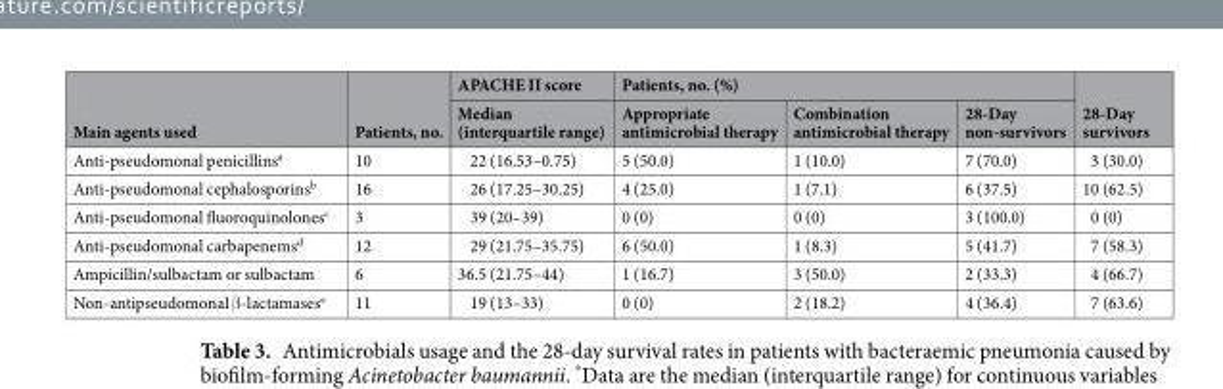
<table><thead><tr><td rowspan="2">Main agents used</td><td rowspan="2">Patients, no.</td><td rowspan="2">APACHE II score Median (interquartile range)</td><td colspan="3">Patients, no. (%)</td><td rowspan="2">28-Day survivors</td></tr><tr><td>Appropriate antimicrobial therapy</td><td>Combination antimicrobial therapy</td><td>28-Day non-survivors</td></tr></thead><tbody><tr><td>Anti-pseudomonal penicillins<sup>a</sup></td><td>10</td><td>22 (16.53–0.75)</td><td>5 (50.0)</td><td>1 (10.0)</td><td>7 (70.0)</td><td>3 (30.0)</td></tr><tr><td>Anti-pseudomonal cephalosporins<sup>b</sup></td><td>16</td><td>26 (17.25–30.25)</td><td>4 (25.0)</td><td>1 (7.1)</td><td>6 (37.5)</td><td>10 (62.5)</td></tr><tr><td>Anti-pseudomonal fluoroquinolones<sup>c</sup></td><td>3</td><td>39 (20–39)</td><td>0 (0)</td><td>0 (0)</td><td>3 (100.0)</td><td>0 (0)</td></tr><tr><td>Anti-pseudomonal carbapenems<sup>d</sup></td><td>12</td><td>29 (21.75–35.75)</td><td>6 (50.0)</td><td>1 (8.3)</td><td>5 (41.7)</td><td>7 (58.3)</td></tr><tr><td>Ampicillin/sulbactam or sulbactam</td><td>6</td><td>36.5 (21.75–44)</td><td>1 (16.7)</td><td>3 (50.0)</td><td>2 (33.3)</td><td>4 (66.7)</td></tr><tr><td>Non-antipseudomonal β-lactamases<sup>e</sup></td><td>11</td><td>19 (13–33)</td><td>0 (0)</td><td>2 (18.2)</td><td>4 (36.4)</td><td>7 (63.6)</td></tr></tbody></table>